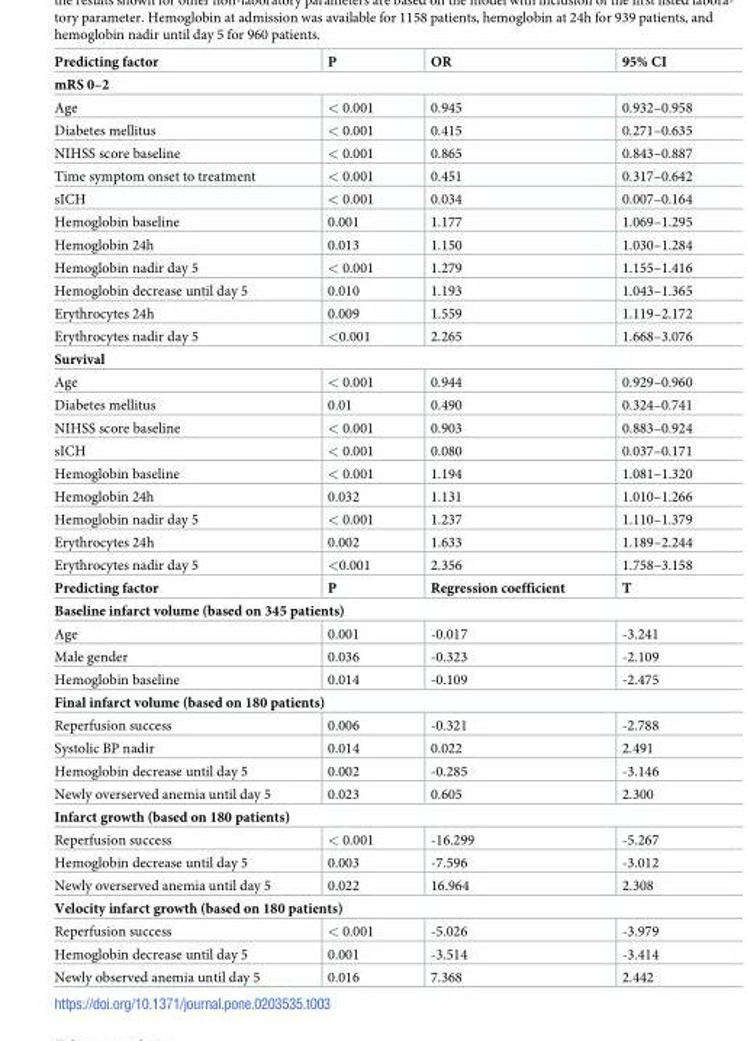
<table><tbody><tr><td>Predicting factor</td><td>P</td><td>OR</td><td>95% CI</td></tr><tr><td colspan="4">mRS 0–2</td></tr><tr><td>Age</td><td>&lt; 0.001</td><td>0.945</td><td>0.932–0.958</td></tr><tr><td>Diabetes mellitus</td><td>&lt; 0.001</td><td>0.415</td><td>0.271–0.635</td></tr><tr><td>NIHSS score baseline</td><td>&lt; 0.001</td><td>0.865</td><td>0.843–0.887</td></tr><tr><td>Time symptom onset to treatment</td><td>&lt; 0.001</td><td>0.451</td><td>0.317–0.642</td></tr><tr><td>sICH</td><td>&lt; 0.001</td><td>0.034</td><td>0.007–0.164</td></tr><tr><td>Hemoglobin baseline</td><td>0.001</td><td>1.177</td><td>1.069–1.295</td></tr><tr><td>Hemoglobin 24h</td><td>0.013</td><td>1.150</td><td>1.030–1.284</td></tr><tr><td>Hemoglobin nadir day 5</td><td>&lt; 0.001</td><td>1.279</td><td>1.155–1.416</td></tr><tr><td>Hemoglobin decrease until day 5</td><td>0.010</td><td>1.193</td><td>1.043–1.365</td></tr><tr><td>Erythrocytes 24h</td><td>0.009</td><td>1.559</td><td>1.119–2.172</td></tr><tr><td>Erythrocytes nadir day 5</td><td>&lt;0.001</td><td>2.265</td><td>1.668–3.076</td></tr><tr><td colspan="4">Survival</td></tr><tr><td>Age</td><td>&lt; 0.001</td><td>0.944</td><td>0.929–0.960</td></tr><tr><td>Diabetes mellitus</td><td>0.01</td><td>0.490</td><td>0.324–0.741</td></tr><tr><td>NIHSS score baseline</td><td>&lt; 0.001</td><td>0.903</td><td>0.883–0.924</td></tr><tr><td>sICH</td><td>&lt; 0.001</td><td>0.080</td><td>0.037–0.171</td></tr><tr><td>Hemoglobin baseline</td><td>&lt; 0.001</td><td>1.194</td><td>1.081–1.320</td></tr><tr><td>Hemoglobin 24h</td><td>0.032</td><td>1.131</td><td>1.010–1.266</td></tr><tr><td>Hemoglobin nadir day 5</td><td>&lt; 0.001</td><td>1.237</td><td>1.110–1.379</td></tr><tr><td>Erythrocytes 24h</td><td>0.002</td><td>1.633</td><td>1.189–2.244</td></tr><tr><td>Erythrocytes nadir day 5</td><td>&lt;0.001</td><td>2.356</td><td>1.758–3.158</td></tr><tr><td>Predicting factor</td><td>P</td><td>Regression coefficient</td><td>T</td></tr><tr><td colspan="4">Baseline infarct volume (based on 345 patients)</td></tr><tr><td>Age</td><td>0.001</td><td>-0.017</td><td>-3.241</td></tr><tr><td>Male gender</td><td>0.036</td><td>-0.323</td><td>-2.109</td></tr><tr><td>Hemoglobin baseline</td><td>0.014</td><td>-0.109</td><td>-2.475</td></tr><tr><td colspan="4">Final infarct volume (based on 180 patients)</td></tr><tr><td>Reperfusion success</td><td>0.006</td><td>-0.321</td><td>-2.788</td></tr><tr><td>Systolic BP nadir</td><td>0.014</td><td>0.022</td><td>2.491</td></tr><tr><td>Hemoglobin decrease until day 5</td><td>0.002</td><td>-0.285</td><td>-3.146</td></tr><tr><td>Newly overserved anemia until day 5</td><td>0.023</td><td>0.605</td><td>2.300</td></tr><tr><td colspan="4">Infarct growth (based on 180 patients)</td></tr><tr><td>Reperfusion success</td><td>&lt; 0.001</td><td>-16.299</td><td>-5.267</td></tr><tr><td>Hemoglobin decrease until day 5</td><td>0.003</td><td>-7.596</td><td>-3.012</td></tr><tr><td>Newly overserved anemia until day 5</td><td>0.022</td><td>16.964</td><td>2.308</td></tr><tr><td colspan="4">Velocity infarct growth (based on 180 patients)</td></tr><tr><td>Reperfusion success</td><td>&lt; 0.001</td><td>-5.026</td><td>-3.979</td></tr><tr><td>Hemoglobin decrease until day 5</td><td>0.001</td><td>-3.514</td><td>-3.414</td></tr><tr><td>Newly observed anemia until day 5</td><td>0.016</td><td>7.368</td><td>2.442</td></tr></tbody></table>